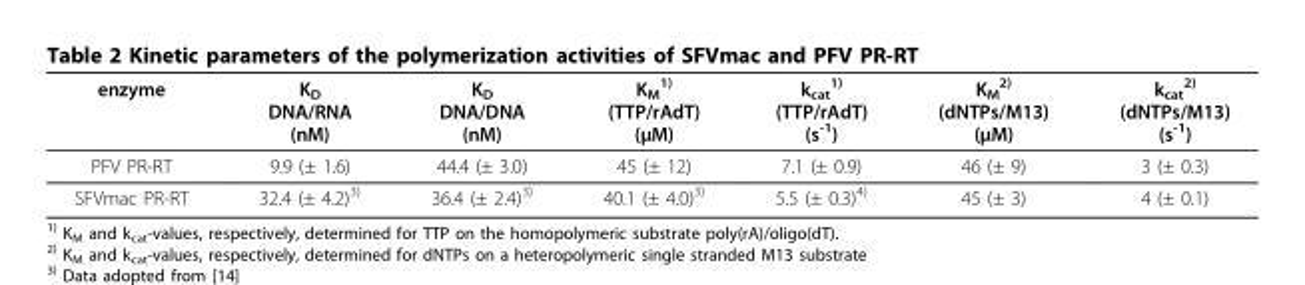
<table><thead><tr><td>enzyme</td><td>K<sub>D</sub> DNA/RNA (nM)</td><td>K<sub>D</sub> DNA/DNA (nM)</td><td>K<sub>M</sub> <sup>1)</sup> (TTP/rAdT) (μM)</td><td>k<sub>cat</sub> <sup>1)</sup> (TTP/rAdT) (s<sup>-1</sup>)</td><td>K<sub>M</sub> <sup>2)</sup> (dNTPs/M13) (μM)</td><td>k<sub>cat</sub> <sup>2)</sup> (dNTPs/M13) (s<sup>-1</sup>)</td></tr></thead><tbody><tr><td>PFV PR-RT</td><td>9.9 (± 1.6)</td><td>44.4 (± 3.0)</td><td>45 (± 12)</td><td>7.1 (± 0.9)</td><td>46 (± 9)</td><td>3 (± 0.3)</td></tr><tr><td>SFVmac PR-RT</td><td>32.4 (± 4.2)<sup>3)</sup></td><td>36.4 (± 2.4)<sup>3)</sup></td><td>40.1 (± 4.0)<sup>3)</sup></td><td>5.5 (± 0.3)<sup>4)</sup></td><td>45 (± 3)</td><td>4 (± 0.1)</td></tr></tbody></table>